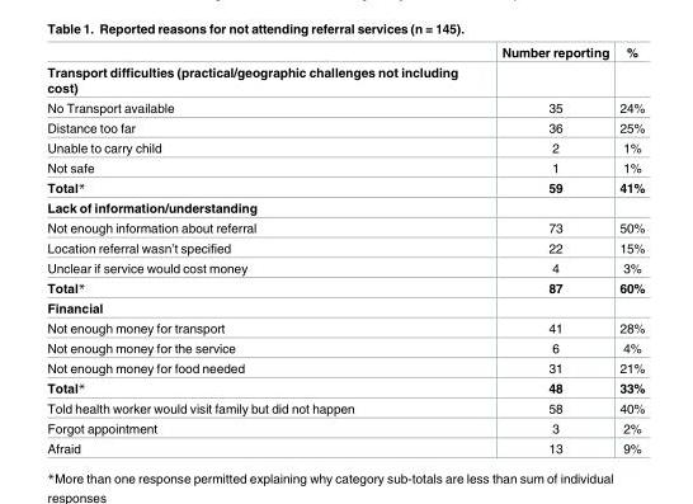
<table><thead><tr><td></td><td>Number reporting</td><td>%</td></tr></thead><tbody><tr><td colspan="3">Transport difficulties (practical/geographic challenges not including cost)</td></tr><tr><td>No Transport available</td><td>35</td><td>24%</td></tr><tr><td>Distance too far</td><td>36</td><td>25%</td></tr><tr><td>Unable to carry child</td><td>2</td><td>1%</td></tr><tr><td>Not safe</td><td>1</td><td>1%</td></tr><tr><td>Total*</td><td>59</td><td>41%</td></tr><tr><td colspan="3">Lack of information/understanding</td></tr><tr><td>Not enough information about referral</td><td>73</td><td>50%</td></tr><tr><td>Location referral wasn’t specified</td><td>22</td><td>15%</td></tr><tr><td>Unclear if service would cost money</td><td>4</td><td>3%</td></tr><tr><td>Total*</td><td>87</td><td>60%</td></tr><tr><td colspan="3">Financial</td></tr><tr><td>Not enough money for transport</td><td>41</td><td>28%</td></tr><tr><td>Not enough money for the service</td><td>6</td><td>4%</td></tr><tr><td>Not enough money for food needed</td><td>31</td><td>21%</td></tr><tr><td>Total*</td><td>48</td><td>33%</td></tr><tr><td>Told health worker would visit family but did not happen</td><td>58</td><td>40%</td></tr><tr><td>Forgot appointment</td><td>3</td><td>2%</td></tr><tr><td>Afraid</td><td>13</td><td>9%</td></tr></tbody></table>